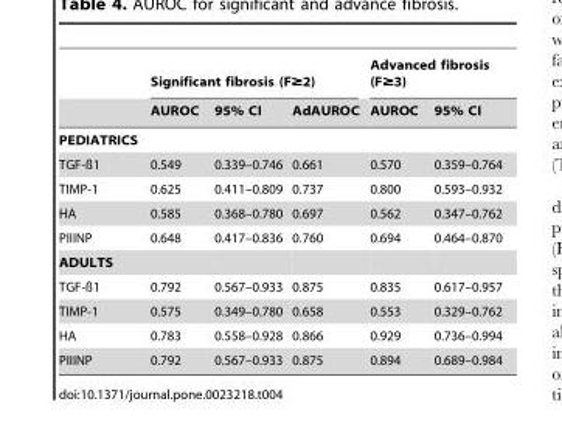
<table><thead><tr><td rowspan="2"></td><td colspan="3">Significant fibrosis (F≥2)</td><td colspan="2">Advanced fibrosis (F≥3)</td></tr><tr><td>AUROC</td><td>95% CI</td><td>AdAUROC</td><td>AUROC</td><td>95% CI</td></tr></thead><tbody><tr><td colspan="6">PEDIATRICS</td></tr><tr><td>TGF-ß1</td><td>0.549</td><td>0.339–0.746</td><td>0.661</td><td>0.570</td><td>0.359–0.764</td></tr><tr><td>TIMP-1</td><td>0.625</td><td>0.411–0.809</td><td>0.737</td><td>0.800</td><td>0.593–0.932</td></tr><tr><td>HA</td><td>0.585</td><td>0.368–0.780</td><td>0.697</td><td>0.562</td><td>0.347–0.762</td></tr><tr><td>PIIINP</td><td>0.648</td><td>0.417–0.836</td><td>0.760</td><td>0.694</td><td>0.464–0.870</td></tr><tr><td colspan="6">ADULTS</td></tr><tr><td>TGF-ß1</td><td>0.792</td><td>0.567–0.933</td><td>0.875</td><td>0.835</td><td>0.617–0.957</td></tr><tr><td>TIMP-1</td><td>0.575</td><td>0.349–0.780</td><td>0.658</td><td>0.553</td><td>0.329–0.762</td></tr><tr><td>HA</td><td>0.783</td><td>0.558–0.928</td><td>0.866</td><td>0.929</td><td>0.736–0.994</td></tr><tr><td>PIIINP</td><td>0.792</td><td>0.567–0.933</td><td>0.875</td><td>0.894</td><td>0.689–0.984</td></tr></tbody></table>